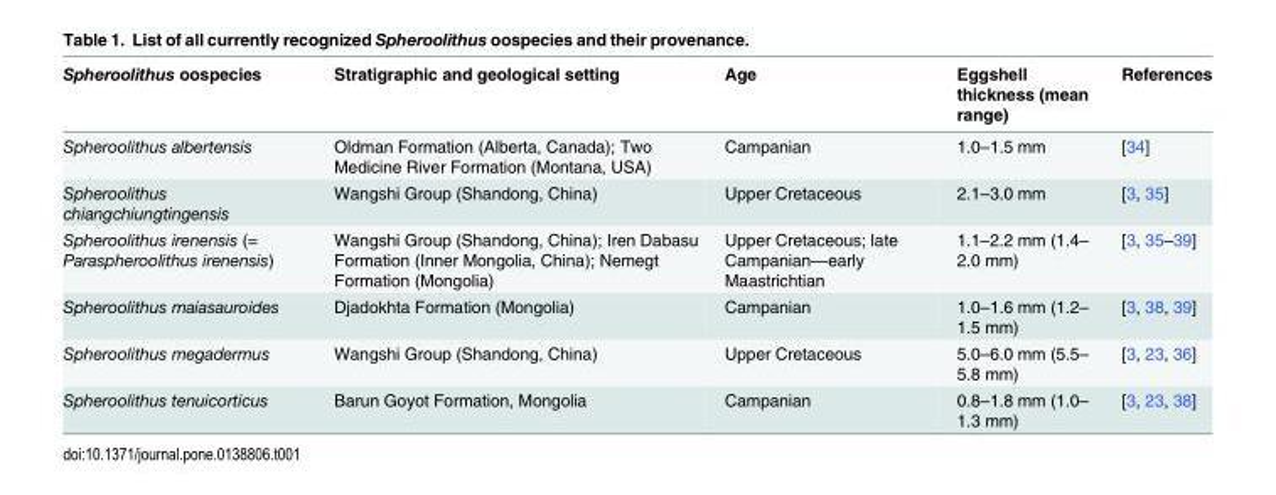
<table><thead><tr><td>Spheroolithus oospecies</td><td>Stratigraphic and geological setting</td><td>Age</td><td>Eggshell thickness (mean range)</td><td>References</td></tr></thead><tbody><tr><td>Spheroolithus albertensis</td><td>Oldman Formation (Alberta, Canada); Two Medicine River Formation (Montana, USA)</td><td>Campanian</td><td>1.0–1.5 mm</td><td>[34]</td></tr><tr><td>Spheroolithus chiangchiungtingensis</td><td>Wangshi Group (Shandong, China)</td><td>Upper Cretaceous</td><td>2.1–3.0 mm</td><td>[3, 35]</td></tr><tr><td>Spheroolithus irenensis (= Paraspheroolithus irenensis)</td><td>Wangshi Group (Shandong, China); Iren Dabasu Formation (Inner Mongolia, China); Nemegt Formation (Mongolia)</td><td>Upper Cretaceous; late Campanian—early Maastrichtian</td><td>1.1–2.2 mm (1.4– 2.0 mm)</td><td>[3, 35–39]</td></tr><tr><td>Spheroolithus maiasauroides</td><td>Djadokhta Formation (Mongolia)</td><td>Campanian</td><td>1.0–1.6 mm (1.2– 1.5 mm)</td><td>[3, 38, 39]</td></tr><tr><td>Spheroolithus megadermus</td><td>Wangshi Group (Shandong, China)</td><td>Upper Cretaceous</td><td>5.0–6.0 mm (5.5– 5.8 mm)</td><td>[3, 23, 36]</td></tr><tr><td>Spheroolithus tenuicorticus</td><td>Barun Goyot Formation, Mongolia</td><td>Campanian</td><td>0.8–1.8 mm (1.0– 1.3 mm)</td><td>[3, 23, 38]</td></tr></tbody></table>